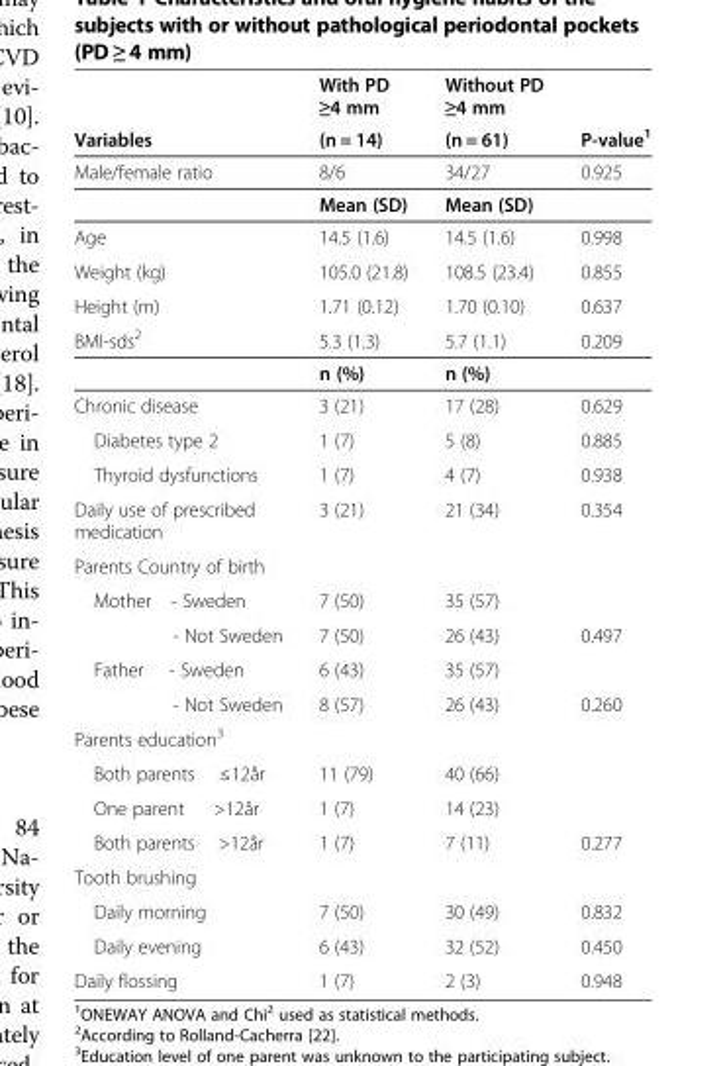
<table><thead><tr><td rowspan="2">Variables</td><td rowspan="2">With PD ≥4 mm (n = 14)</td><td rowspan="2">Without PD ≥4 mm (n = 61)</td><td rowspan="2">P-value<sup>1</sup></td></tr><tr></tr></thead><tbody><tr><td rowspan="2">Male/female ratio</td><td>8/6</td><td>34/27</td><td>0.925</td></tr><tr><td>Mean (SD)</td><td>Mean (SD)</td><td></td></tr><tr><td>Age</td><td>14.5 (1.6)</td><td>14.5 (1.6)</td><td>0.998</td></tr><tr><td>Weight (kg)</td><td>105.0 (21.8)</td><td>108.5 (23.4)</td><td>0.855</td></tr><tr><td>Height (m)</td><td>1.71 (0.12)</td><td>1.70 (0.10)</td><td>0.637</td></tr><tr><td rowspan="2">BMI-sds<sup>2</sup></td><td>5.3 (1.3)</td><td>5.7 (1.1)</td><td>0.209</td></tr><tr><td>n (%)</td><td>n (%)</td><td></td></tr><tr><td>Chronic disease</td><td>3 (21)</td><td>17 (28)</td><td>0.629</td></tr><tr><td>Diabetes type 2</td><td>1 (7)</td><td>5 (8)</td><td>0.885</td></tr><tr><td>Thyroid dysfunctions</td><td>1 (7)</td><td>4 (7)</td><td>0.938</td></tr><tr><td>Daily use of prescribed medication</td><td>3 (21)</td><td>21 (34)</td><td>0.354</td></tr><tr><td colspan="4">Parents Country of birth</td></tr><tr><td>Mother - Sweden</td><td>7 (50)</td><td>35 (57)</td><td></td></tr><tr><td>- Not Sweden</td><td>7 (50)</td><td>26 (43)</td><td>0.497</td></tr><tr><td>Father - Sweden</td><td>6 (43)</td><td>35 (57)</td><td></td></tr><tr><td>- Not Sweden</td><td>8 (57)</td><td>26 (43)</td><td>0.260</td></tr><tr><td colspan="4">Parents education<sup>3</sup></td></tr><tr><td>Both parents ≤12år</td><td>11 (79)</td><td>40 (66)</td><td></td></tr><tr><td>One parent &gt;12år</td><td>1 (7)</td><td>14 (23)</td><td></td></tr><tr><td>Both parents &gt;12år</td><td>1 (7)</td><td>7 (11)</td><td>0.277</td></tr><tr><td colspan="4">Tooth brushing</td></tr><tr><td>Daily morning</td><td>7 (50)</td><td>30 (49)</td><td>0.832</td></tr><tr><td>Daily evening</td><td>6 (43)</td><td>32 (52)</td><td>0.450</td></tr><tr><td>Daily flossing</td><td>1 (7)</td><td>2 (3)</td><td>0.948</td></tr></tbody></table>